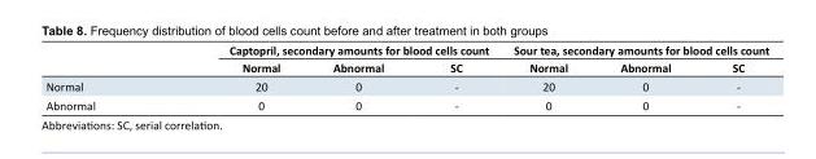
<table><thead><tr><td rowspan="2"></td><td colspan="3">Captopril, secondary amounts for blood cells count</td><td colspan="3">Sour tea, secondary amounts for blood cells count</td></tr><tr><td>Normal</td><td>Abnormal</td><td>SC</td><td>Normal</td><td>Abnormal</td><td>SC</td></tr></thead><tbody><tr><td>Normal</td><td>20</td><td>0</td><td>-</td><td>20</td><td>0</td><td>-</td></tr><tr><td>Abnormal</td><td>0</td><td>0</td><td>-</td><td>0</td><td>0</td><td>-</td></tr></tbody></table>